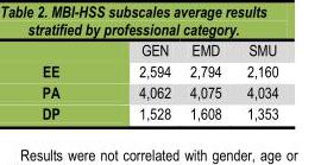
<table><thead><tr><td></td><td>GEN</td><td>EMD</td><td>SMU</td></tr></thead><tbody><tr><td>EE</td><td>2,594</td><td>2,794</td><td>2,160</td></tr><tr><td>PA</td><td>4,062</td><td>4,075</td><td>4,034</td></tr><tr><td>DP</td><td>1,528</td><td>1,608</td><td>1,353</td></tr></tbody></table>